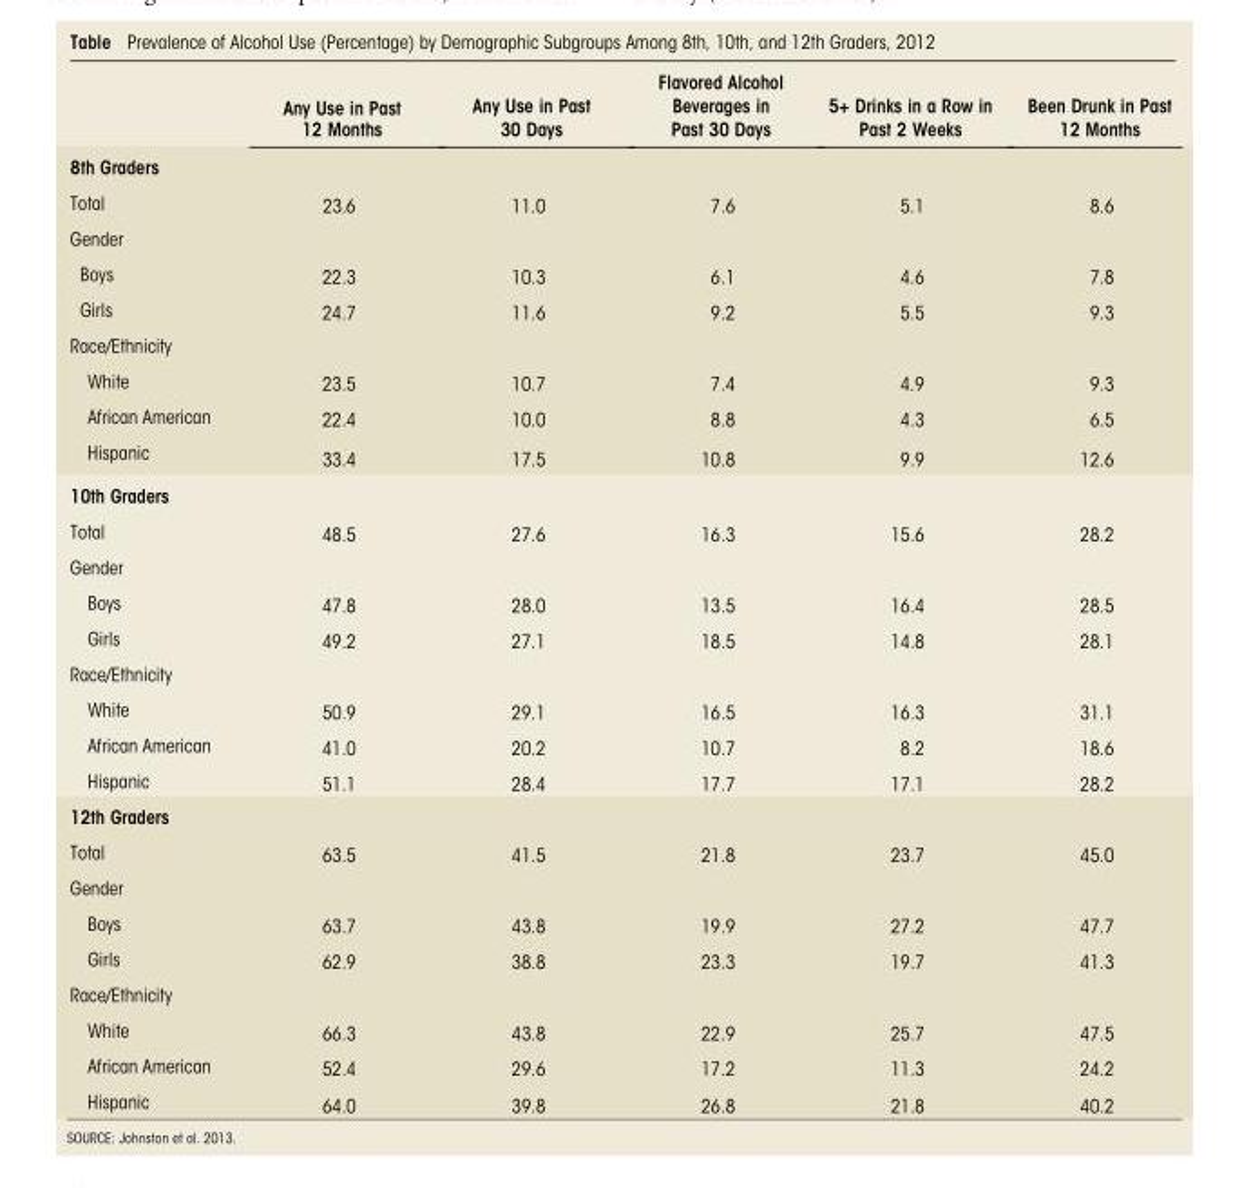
<table><thead><tr><td></td><td>Any Use in Past 12 Months</td><td>Any Use in Past 30 Days</td><td>Flavored Alcohol Beverages in Past 30 Days</td><td>5+ Drinks in a Row in Past 2 Weeks</td><td>Been Drunk in Past 12 Months</td></tr></thead><tbody><tr><td colspan="6">8th Graders</td></tr><tr><td>Total</td><td>23.6</td><td>11.0</td><td>7.6</td><td>5.1</td><td>8.6</td></tr><tr><td colspan="6">Gender</td></tr><tr><td>Boys</td><td>22.3</td><td>10.3</td><td>6.1</td><td>4.6</td><td>7.8</td></tr><tr><td>Girls</td><td>24.7</td><td>11.6</td><td>9.2</td><td>5.5</td><td>9.3</td></tr><tr><td colspan="6">Race/Ethnicity</td></tr><tr><td>White</td><td>23.5</td><td>10.7</td><td>7.4</td><td>4.9</td><td>9.3</td></tr><tr><td>African American</td><td>22.4</td><td>10.0</td><td>8.8</td><td>4.3</td><td>6.5</td></tr><tr><td>Hispanic</td><td>33.4</td><td>17.5</td><td>10.8</td><td>9.9</td><td>12.6</td></tr><tr><td colspan="6">10th Graders</td></tr><tr><td>Total</td><td>48.5</td><td>27.6</td><td>16.3</td><td>15.6</td><td>28.2</td></tr><tr><td colspan="6">Gender</td></tr><tr><td>Boys</td><td>47.8</td><td>28.0</td><td>13.5</td><td>16.4</td><td>28.5</td></tr><tr><td>Girls</td><td>49.2</td><td>27.1</td><td>18.5</td><td>14.8</td><td>28.1</td></tr><tr><td colspan="6">Race/Ethnicity</td></tr><tr><td>White</td><td>50.9</td><td>29.1</td><td>16.5</td><td>16.3</td><td>31.1</td></tr><tr><td>African American</td><td>41.0</td><td>20.2</td><td>10.7</td><td>8.2</td><td>18.6</td></tr><tr><td>Hispanic</td><td>51.1</td><td>28.4</td><td>17.7</td><td>17.1</td><td>28.2</td></tr><tr><td colspan="6">12th Graders</td></tr><tr><td>Total</td><td>63.5</td><td>41.5</td><td>21.8</td><td>23.7</td><td>45.0</td></tr><tr><td colspan="6">Gender</td></tr><tr><td>Boys</td><td>63.7</td><td>43.8</td><td>19.9</td><td>27.2</td><td>47.7</td></tr><tr><td>Girls</td><td>62.9</td><td>38.8</td><td>23.3</td><td>19.7</td><td>41.3</td></tr><tr><td colspan="6">Race/Ethnicity</td></tr><tr><td>White</td><td>66.3</td><td>43.8</td><td>22.9</td><td>25.7</td><td>47.5</td></tr><tr><td>African American</td><td>52.4</td><td>29.6</td><td>17.2</td><td>11.3</td><td>24.2</td></tr><tr><td>Hispanic</td><td>64.0</td><td>39.8</td><td>26.8</td><td>21.8</td><td>40.2</td></tr></tbody></table>